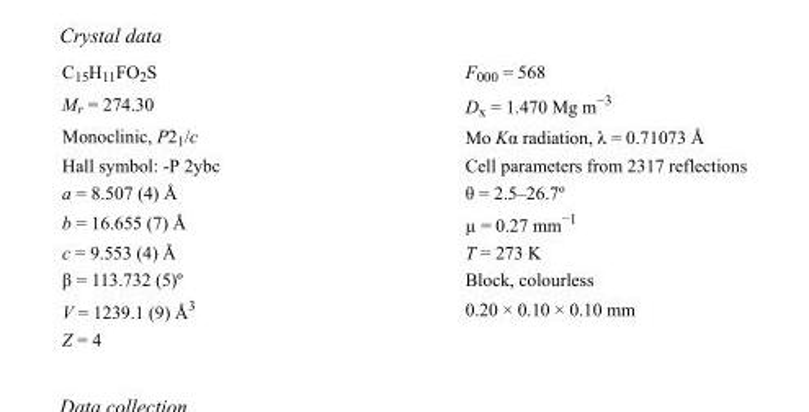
<table><tbody><tr><td>C<sub>15</sub>H<sub>11</sub>FO<sub>2</sub>S</td><td>F000 = 568</td></tr><tr><td>M<sub>r</sub> = 274.30</td><td>D<sub>x</sub> = 1.470 Mg m<sup>−3</sup></td></tr><tr><td>Monoclinic, P2<sub>1</sub>/c</td><td>Mo Kα radiation, λ = 0.71073 Å</td></tr><tr><td>Hall symbol: -P 2ybc</td><td>Cell parameters from 2317 reflections</td></tr><tr><td>a = 8.507 (4) Å</td><td>θ = 2.5–26.7º</td></tr><tr><td>b = 16.655 (7) Å</td><td>µ = 0.27 mm<sup>−1</sup></td></tr><tr><td>c = 9.553 (4) Å</td><td>T = 273 K</td></tr><tr><td>β = 113.732 (5)º</td><td>Block, colourless</td></tr><tr><td>V = 1239.1 (9) Å<sup>3</sup></td><td>0.20 × 0.10 × 0.10 mm</td></tr><tr><td>Z = 4</td><td></td></tr></tbody></table>